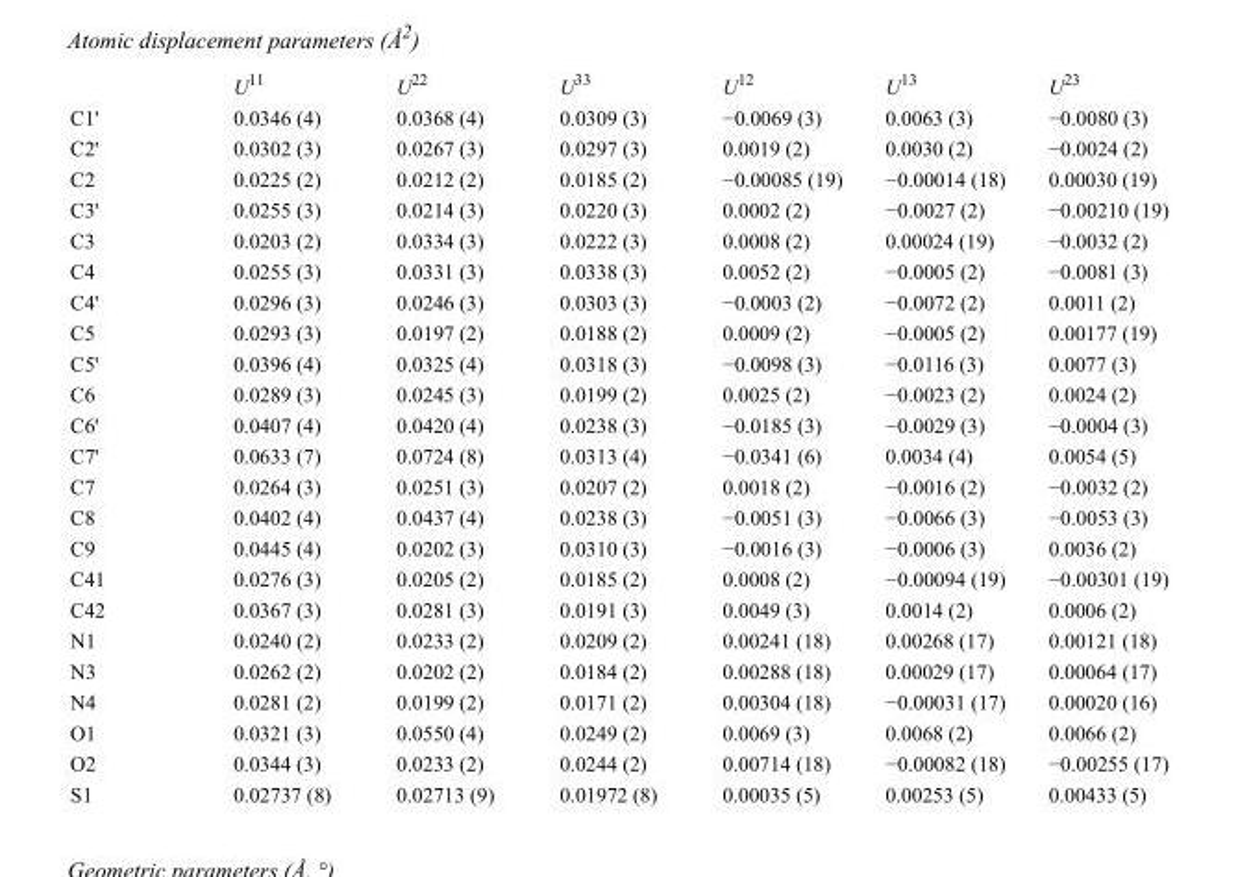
<table><thead><tr><td></td><td>U<sup>11</sup></td><td>U<sup>22</sup></td><td>U<sup>33</sup></td><td>U<sup>12</sup></td><td>U<sup>13</sup></td><td>U<sup>23</sup></td></tr></thead><tbody><tr><td>C1&#x27;</td><td>0.0346 (4)</td><td>0.0368 (4)</td><td>0.0309 (3)</td><td>−0.0069 (3)</td><td>0.0063 (3)</td><td>−0.0080 (3)</td></tr><tr><td>C2&#x27;</td><td>0.0302 (3)</td><td>0.0267 (3)</td><td>0.0297 (3)</td><td>0.0019 (2)</td><td>0.0030 (2)</td><td>−0.0024 (2)</td></tr><tr><td>C2</td><td>0.0225 (2)</td><td>0.0212 (2)</td><td>0.0185 (2)</td><td>−0.00085 (19)</td><td>−0.00014 (18)</td><td>0.00030 (19)</td></tr><tr><td>C3&#x27;</td><td>0.0255 (3)</td><td>0.0214 (3)</td><td>0.0220 (3)</td><td>0.0002 (2)</td><td>−0.0027 (2)</td><td>−0.00210 (19)</td></tr><tr><td>C3</td><td>0.0203 (2)</td><td>0.0334 (3)</td><td>0.0222 (3)</td><td>0.0008 (2)</td><td>0.00024 (19)</td><td>−0.0032 (2)</td></tr><tr><td>C4</td><td>0.0255 (3)</td><td>0.0331 (3)</td><td>0.0338 (3)</td><td>0.0052 (2)</td><td>−0.0005 (2)</td><td>−0.0081 (3)</td></tr><tr><td>C4&#x27;</td><td>0.0296 (3)</td><td>0.0246 (3)</td><td>0.0303 (3)</td><td>−0.0003 (2)</td><td>−0.0072 (2)</td><td>0.0011 (2)</td></tr><tr><td>C5</td><td>0.0293 (3)</td><td>0.0197 (2)</td><td>0.0188 (2)</td><td>0.0009 (2)</td><td>−0.0005 (2)</td><td>0.00177 (19)</td></tr><tr><td>C5&#x27;</td><td>0.0396 (4)</td><td>0.0325 (4)</td><td>0.0318 (3)</td><td>−0.0098 (3)</td><td>−0.0116 (3)</td><td>0.0077 (3)</td></tr><tr><td>C6</td><td>0.0289 (3)</td><td>0.0245 (3)</td><td>0.0199 (2)</td><td>0.0025 (2)</td><td>−0.0023 (2)</td><td>0.0024 (2)</td></tr><tr><td>C6&#x27;</td><td>0.0407 (4)</td><td>0.0420 (4)</td><td>0.0238 (3)</td><td>−0.0185 (3)</td><td>−0.0029 (3)</td><td>−0.0004 (3)</td></tr><tr><td>C7&#x27;</td><td>0.0633 (7)</td><td>0.0724 (8)</td><td>0.0313 (4)</td><td>−0.0341 (6)</td><td>0.0034 (4)</td><td>0.0054 (5)</td></tr><tr><td>C7</td><td>0.0264 (3)</td><td>0.0251 (3)</td><td>0.0207 (2)</td><td>0.0018 (2)</td><td>−0.0016 (2)</td><td>−0.0032 (2)</td></tr><tr><td>C8</td><td>0.0402 (4)</td><td>0.0437 (4)</td><td>0.0238 (3)</td><td>−0.0051 (3)</td><td>−0.0066 (3)</td><td>−0.0053 (3)</td></tr><tr><td>C9</td><td>0.0445 (4)</td><td>0.0202 (3)</td><td>0.0310 (3)</td><td>−0.0016 (3)</td><td>−0.0006 (3)</td><td>0.0036 (2)</td></tr><tr><td>C41</td><td>0.0276 (3)</td><td>0.0205 (2)</td><td>0.0185 (2)</td><td>0.0008 (2)</td><td>−0.00094 (19)</td><td>−0.00301 (19)</td></tr><tr><td>C42</td><td>0.0367 (3)</td><td>0.0281 (3)</td><td>0.0191 (3)</td><td>0.0049 (3)</td><td>0.0014 (2)</td><td>0.0006 (2)</td></tr><tr><td>N1</td><td>0.0240 (2)</td><td>0.0233 (2)</td><td>0.0209 (2)</td><td>0.00241 (18)</td><td>0.00268 (17)</td><td>0.00121 (18)</td></tr><tr><td>N3</td><td>0.0262 (2)</td><td>0.0202 (2)</td><td>0.0184 (2)</td><td>0.00288 (18)</td><td>0.00029 (17)</td><td>0.00064 (17)</td></tr><tr><td>N4</td><td>0.0281 (2)</td><td>0.0199 (2)</td><td>0.0171 (2)</td><td>0.00304 (18)</td><td>−0.00031 (17)</td><td>0.00020 (16)</td></tr><tr><td>O1</td><td>0.0321 (3)</td><td>0.0550 (4)</td><td>0.0249 (2)</td><td>0.0069 (3)</td><td>0.0068 (2)</td><td>0.0066 (2)</td></tr><tr><td>O2</td><td>0.0344 (3)</td><td>0.0233 (2)</td><td>0.0244 (2)</td><td>0.00714 (18)</td><td>−0.00082 (18)</td><td>−0.00255 (17)</td></tr><tr><td>S1</td><td>0.02737 (8)</td><td>0.02713 (9)</td><td>0.01972 (8)</td><td>0.00035 (5)</td><td>0.00253 (5)</td><td>0.00433 (5)</td></tr></tbody></table>